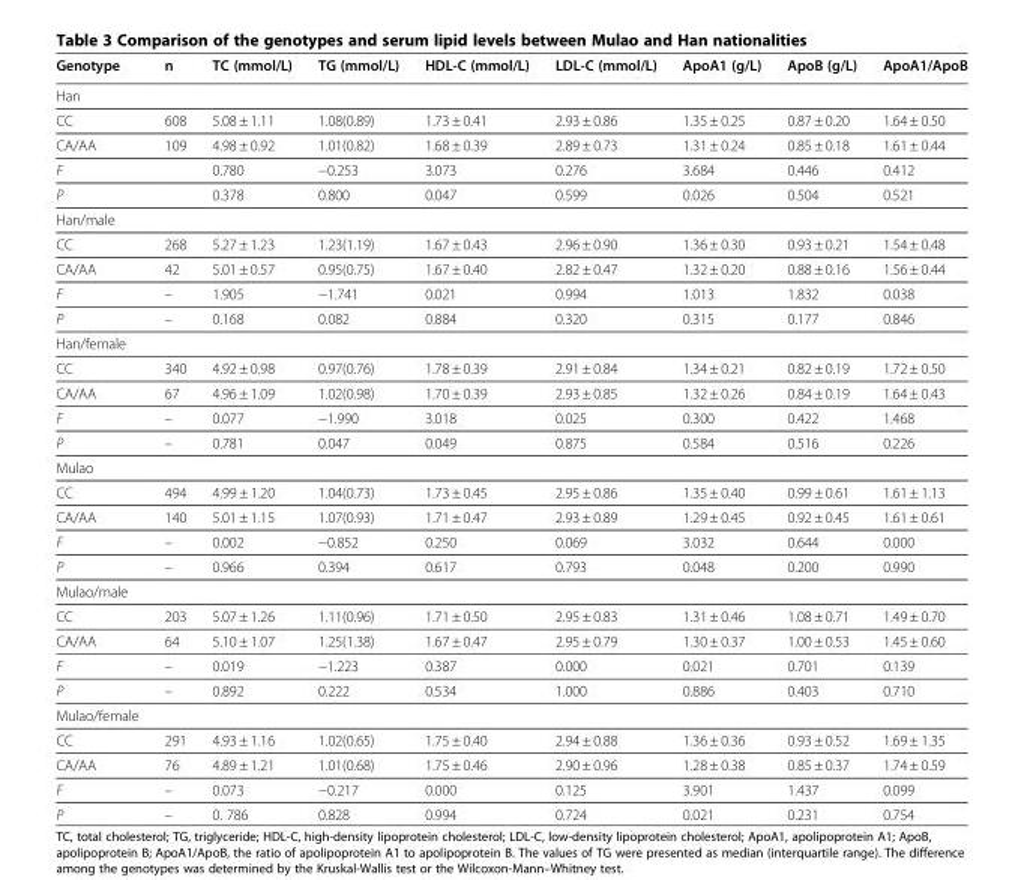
<table><thead><tr><td>Genotype</td><td>n</td><td>TC (mmol/L)</td><td>TG (mmol/L)</td><td>HDL-C (mmol/L)</td><td>LDL-C (mmol/L)</td><td>ApoA1 (g/L)</td><td>ApoB (g/L)</td><td>ApoA1/ApoB</td></tr></thead><tbody><tr><td colspan="9">Han</td></tr><tr><td>CC</td><td>608</td><td>5.08 ± 1.11</td><td>1.08(0.89)</td><td>1.73 ± 0.41</td><td>2.93 ± 0.86</td><td>1.35 ± 0.25</td><td>0.87 ± 0.20</td><td>1.64 ± 0.50</td></tr><tr><td>CA/AA</td><td>109</td><td>4.98 ± 0.92</td><td>1.01(0.82)</td><td>1.68 ± 0.39</td><td>2.89 ± 0.73</td><td>1.31 ± 0.24</td><td>0.85 ± 0.18</td><td>1.61 ± 0.44</td></tr><tr><td>F</td><td></td><td>0.780</td><td>−0.253</td><td>3.073</td><td>0.276</td><td>3.684</td><td>0.446</td><td>0.412</td></tr><tr><td>P</td><td></td><td>0.378</td><td>0.800</td><td>0.047</td><td>0.599</td><td>0.026</td><td>0.504</td><td>0.521</td></tr><tr><td colspan="9">Han/male</td></tr><tr><td>CC</td><td>268</td><td>5.27 ± 1.23</td><td>1.23(1.19)</td><td>1.67 ± 0.43</td><td>2.96 ± 0.90</td><td>1.36 ± 0.30</td><td>0.93 ± 0.21</td><td>1.54 ± 0.48</td></tr><tr><td>CA/AA</td><td>42</td><td>5.01 ± 0.57</td><td>0.95(0.75)</td><td>1.67 ± 0.40</td><td>2.82 ± 0.47</td><td>1.32 ± 0.20</td><td>0.88 ± 0.16</td><td>1.56 ± 0.44</td></tr><tr><td>F</td><td>–</td><td>1.905</td><td>−1.741</td><td>0.021</td><td>0.994</td><td>1.013</td><td>1.832</td><td>0.038</td></tr><tr><td>P</td><td>–</td><td>0.168</td><td>0.082</td><td>0.884</td><td>0.320</td><td>0.315</td><td>0.177</td><td>0.846</td></tr><tr><td colspan="9">Han/female</td></tr><tr><td>CC</td><td>340</td><td>4.92 ± 0.98</td><td>0.97(0.76)</td><td>1.78 ± 0.39</td><td>2.91 ± 0.84</td><td>1.34 ± 0.21</td><td>0.82 ± 0.19</td><td>1.72 ± 0.50</td></tr><tr><td>CA/AA</td><td>67</td><td>4.96 ± 1.09</td><td>1.02(0.98)</td><td>1.70 ± 0.39</td><td>2.93 ± 0.85</td><td>1.32 ± 0.26</td><td>0.84 ± 0.19</td><td>1.64 ± 0.43</td></tr><tr><td>F</td><td>–</td><td>0.077</td><td>−1.990</td><td>3.018</td><td>0.025</td><td>0.300</td><td>0.422</td><td>1.468</td></tr><tr><td>P</td><td>–</td><td>0.781</td><td>0.047</td><td>0.049</td><td>0.875</td><td>0.584</td><td>0.516</td><td>0.226</td></tr><tr><td colspan="9">Mulao</td></tr><tr><td>CC</td><td>494</td><td>4.99 ± 1.20</td><td>1.04(0.73)</td><td>1.73 ± 0.45</td><td>2.95 ± 0.86</td><td>1.35 ± 0.40</td><td>0.99 ± 0.61</td><td>1.61 ± 1.13</td></tr><tr><td>CA/AA</td><td>140</td><td>5.01 ± 1.15</td><td>1.07(0.93)</td><td>1.71 ± 0.47</td><td>2.93 ± 0.89</td><td>1.29 ± 0.45</td><td>0.92 ± 0.45</td><td>1.61 ± 0.61</td></tr><tr><td>F</td><td>–</td><td>0.002</td><td>−0.852</td><td>0.250</td><td>0.069</td><td>3.032</td><td>0.644</td><td>0.000</td></tr><tr><td>P</td><td>–</td><td>0.966</td><td>0.394</td><td>0.617</td><td>0.793</td><td>0.048</td><td>0.200</td><td>0.990</td></tr><tr><td colspan="9">Mulao/male</td></tr><tr><td>CC</td><td>203</td><td>5.07 ± 1.26</td><td>1.11(0.96)</td><td>1.71 ± 0.50</td><td>2.95 ± 0.83</td><td>1.31 ± 0.46</td><td>1.08 ± 0.71</td><td>1.49 ± 0.70</td></tr><tr><td>CA/AA</td><td>64</td><td>5.10 ± 1.07</td><td>1.25(1.38)</td><td>1.67 ± 0.47</td><td>2.95 ± 0.79</td><td>1.30 ± 0.37</td><td>1.00 ± 0.53</td><td>1.45 ± 0.60</td></tr><tr><td>F</td><td>–</td><td>0.019</td><td>−1.223</td><td>0.387</td><td>0.000</td><td>0.021</td><td>0.701</td><td>0.139</td></tr><tr><td>P</td><td>–</td><td>0.892</td><td>0.222</td><td>0.534</td><td>1.000</td><td>0.886</td><td>0.403</td><td>0.710</td></tr><tr><td colspan="9">Mulao/female</td></tr><tr><td>CC</td><td>291</td><td>4.93 ± 1.16</td><td>1.02(0.65)</td><td>1.75 ± 0.40</td><td>2.94 ± 0.88</td><td>1.36 ± 0.36</td><td>0.93 ± 0.52</td><td>1.69 ± 1.35</td></tr><tr><td>CA/AA</td><td>76</td><td>4.89 ± 1.21</td><td>1.01(0.68)</td><td>1.75 ± 0.46</td><td>2.90 ± 0.96</td><td>1.28 ± 0.38</td><td>0.85 ± 0.37</td><td>1.74 ± 0.59</td></tr><tr><td>F</td><td>–</td><td>0.073</td><td>−0.217</td><td>0.000</td><td>0.125</td><td>3.901</td><td>1.437</td><td>0.099</td></tr><tr><td>P</td><td>–</td><td>0. 786</td><td>0.828</td><td>0.994</td><td>0.724</td><td>0.021</td><td>0.231</td><td>0.754</td></tr></tbody></table>